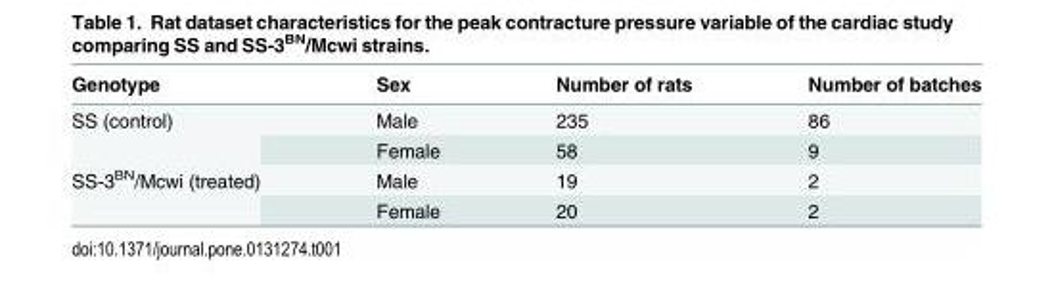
<table><thead><tr><td>Genotype</td><td>Sex</td><td>Number of rats</td><td>Number of batches</td></tr></thead><tbody><tr><td rowspan="2">SS (control)</td><td>Male</td><td>235</td><td>86</td></tr><tr><td>Female</td><td>58</td><td>9</td></tr><tr><td rowspan="2">SS-3<sup>BN</sup>/Mcwi (treated)</td><td>Male</td><td>19</td><td>2</td></tr><tr><td>Female</td><td>20</td><td>2</td></tr></tbody></table>